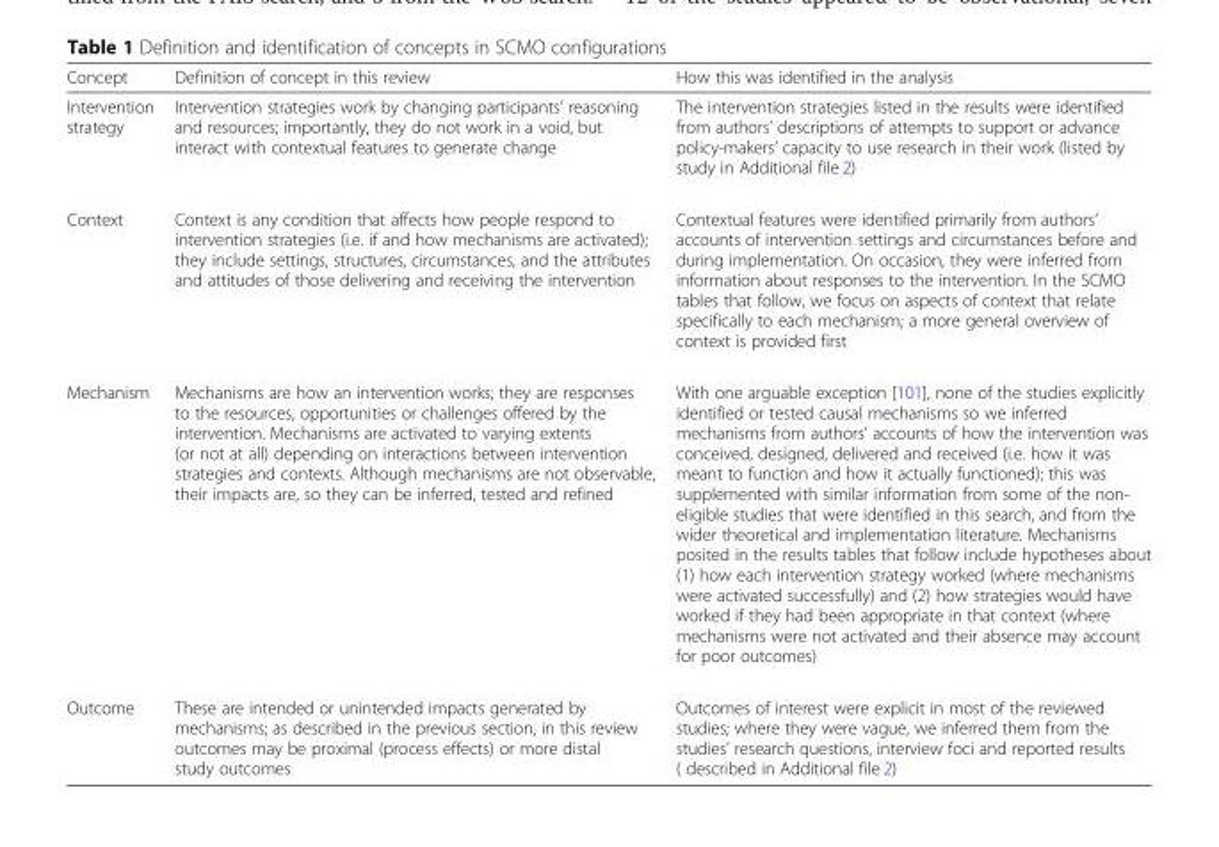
<table><thead><tr><td>Concept</td><td>Definition of concept in this review</td><td>How this was identified in the analysis</td></tr></thead><tbody><tr><td>Intervention strategy</td><td>Intervention strategies work by changing participants’ reasoning and resources; importantly, they do not work in a void, but interact with contextual features to generate change</td><td>The intervention strategies listed in the results were identified from authors’ descriptions of attempts to support or advance policy-makers’ capacity to use research in their work (listed by study in Additional file 2)</td></tr><tr><td>Context</td><td>Context is any condition that affects how people respond to intervention strategies (i.e. if and how mechanisms are activated); they include settings, structures, circumstances, and the attributes and attitudes of those delivering and receiving the intervention</td><td>Contextual features were identified primarily from authors’ accounts of intervention settings and circumstances before and during implementation. On occasion, they were inferred from information about responses to the intervention. In the SCMO tables that follow, we focus on aspects of context that relate specifically to each mechanism; a more general overview of context is provided first</td></tr><tr><td>Mechanism</td><td>Mechanisms are how an intervention works; they are responses to the resources, opportunities or challenges offered by the intervention. Mechanisms are activated to varying extents (or not at all) depending on interactions between intervention strategies and contexts. Although mechanisms are not observable, their impacts are, so they can be inferred, tested and refined</td><td>With one arguable exception [101], none of the studies explicitly identified or tested causal mechanisms so we inferred mechanisms from authors’ accounts of how the intervention was conceived, designed, delivered and received (i.e. how it was meant to function and how it actually functioned); this was supplemented with similar information from some of the non- eligible studies that were identified in this search, and from the wider theoretical and implementation literature. Mechanisms posited in the results tables that follow include hypotheses about (1) how each intervention strategy worked (where mechanisms were activated successfully) and (2) how strategies would have worked if they had been appropriate in that context (where mechanisms were not activated and their absence may account for poor outcomes)</td></tr><tr><td>Outcome</td><td>These are intended or unintended impacts generated by mechanisms; as described in the previous section, in this review outcomes may be proximal (process effects) or more distal study outcomes</td><td>Outcomes of interest were explicit in most of the reviewed studies; where they were vague, we inferred them from the studies’ research questions, interview foci and reported results ( described in Additional file 2)</td></tr></tbody></table>